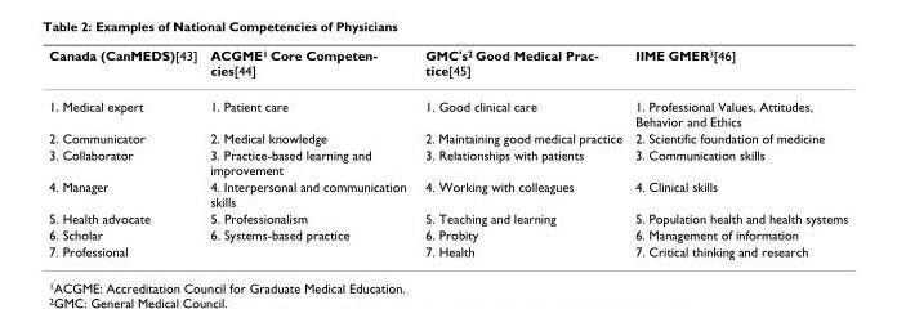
<table><thead><tr><td>Canada (CanMEDS)[43]</td><td>ACGME1 Core Competen- cies[44]</td><td>GMC&#x27;s2 Good Medical Prac- tice[45]</td><td>IIME GMER<sup>3</sup>[46]</td></tr></thead><tbody><tr><td>1. Medical expert</td><td>1. Patient care</td><td>1. Good clinical care</td><td>1. Professional Values, Attitudes, Behavior and Ethics</td></tr><tr><td>2. Communicator</td><td>2. Medical knowledge</td><td>2. Maintaining good medical practice</td><td>2. Scientific foundation of medicine</td></tr><tr><td>3. Collaborator</td><td>3. Practice-based learning and improvement</td><td>3. Relationships with patients</td><td>3. Communication skills</td></tr><tr><td>4. Manager</td><td>4. Interpersonal and communication skills</td><td>4. Working with colleagues</td><td>4. Clinical skills</td></tr><tr><td>5. Health advocate</td><td>5. Professionalism</td><td>5. Teaching and learning</td><td>5. Population health and health systems</td></tr><tr><td>6. Scholar</td><td>6. Systems-based practice</td><td>6. Probity</td><td>6. Management of information</td></tr><tr><td>7. Professional</td><td></td><td>7. Health</td><td>7. Critical thinking and research</td></tr></tbody></table>